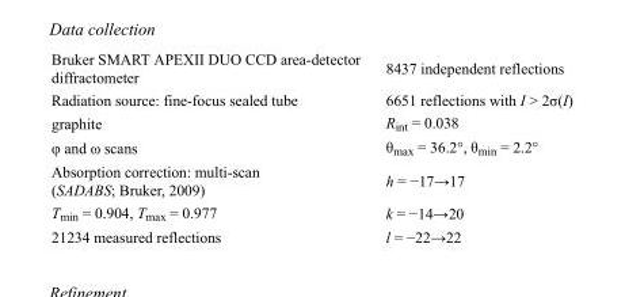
<table><tbody><tr><td>Bruker SMART APEXII DUO CCD area-detector diffractometer</td><td>8437 independent reflections</td></tr><tr><td>Radiation source: fine-focus sealed tube</td><td>6651 reflections with I &gt; 2σ(I)</td></tr><tr><td>graphite</td><td>R<sub>int</sub> = 0.038</td></tr><tr><td>φ and ω scans</td><td>θ<sub>max</sub> = 36.2°, θ<sub>min</sub> = 2.2°</td></tr><tr><td>Absorption correction: multi-scan (SADABS; Bruker, 2009)</td><td>h = −17→17</td></tr><tr><td>T<sub>min</sub> = 0.904, T<sub>max</sub> = 0.977</td><td>k = −14→20</td></tr><tr><td>21234 measured reflections</td><td>l = −22→22</td></tr></tbody></table>